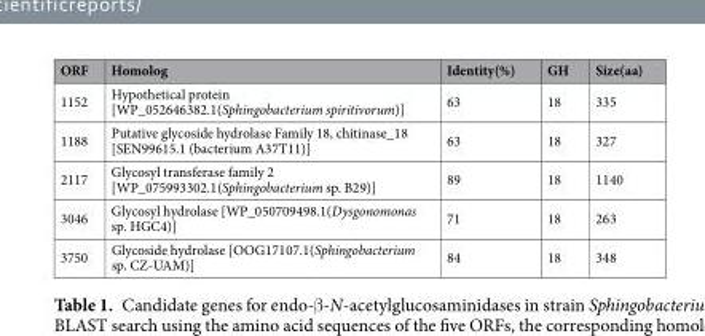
<table><thead><tr><td>ORF</td><td>Homolog</td><td>Identity(%)</td><td>GH</td><td>Size(aa)</td></tr></thead><tbody><tr><td>1152</td><td>Hypothetical protein [WP_052646382.1(Sphingobacterium spiritivorum)]</td><td>63</td><td>18</td><td>335</td></tr><tr><td>1188</td><td>Putative glycoside hydrolase Family 18, chitinase_18 [SEN99615.1 (bacterium A37T11)]</td><td>63</td><td>18</td><td>327</td></tr><tr><td>2117</td><td>Glycosyl transferase family 2 [WP_075993302.1(Sphingobacterium sp. B29)]</td><td>89</td><td>18</td><td>1140</td></tr><tr><td>3046</td><td>Glycosyl hydrolase [WP_050709498.1(Dysgonomonas sp. HGC4)]</td><td>71</td><td>18</td><td>263</td></tr><tr><td>3750</td><td>Glycoside hydrolase [OOG17107.1(Sphingobacterium sp. CZ-UAM)]</td><td>84</td><td>18</td><td>348</td></tr></tbody></table>